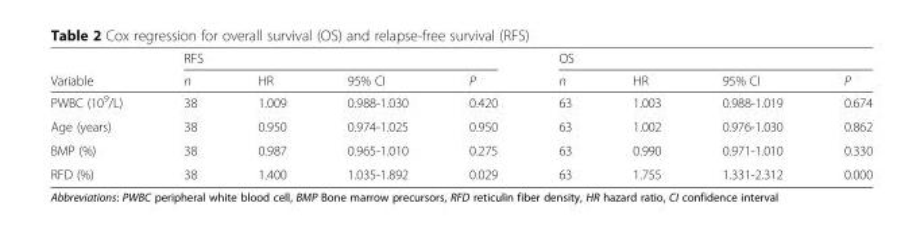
<table><thead><tr><td rowspan="2">Variable</td><td colspan="4">RFS</td><td colspan="4">OS</td></tr><tr><td>n</td><td>HR</td><td>95% CI</td><td>P</td><td>n</td><td>HR</td><td>95% CI</td><td>P</td></tr></thead><tbody><tr><td>PWBC (10<sup>9</sup>/L)</td><td>38</td><td>1.009</td><td>0.988-1.030</td><td>0.420</td><td>63</td><td>1.003</td><td>0.988-1.019</td><td>0.674</td></tr><tr><td>Age (years)</td><td>38</td><td>0.950</td><td>0.974-1.025</td><td>0.950</td><td>63</td><td>1.002</td><td>0.976-1.030</td><td>0.862</td></tr><tr><td>BMP (%)</td><td>38</td><td>0.987</td><td>0.965-1.010</td><td>0.275</td><td>63</td><td>0.990</td><td>0.971-1.010</td><td>0.330</td></tr><tr><td>RFD (%)</td><td>38</td><td>1.400</td><td>1.035-1.892</td><td>0.029</td><td>63</td><td>1.755</td><td>1.331-2.312</td><td>0.000</td></tr></tbody></table>